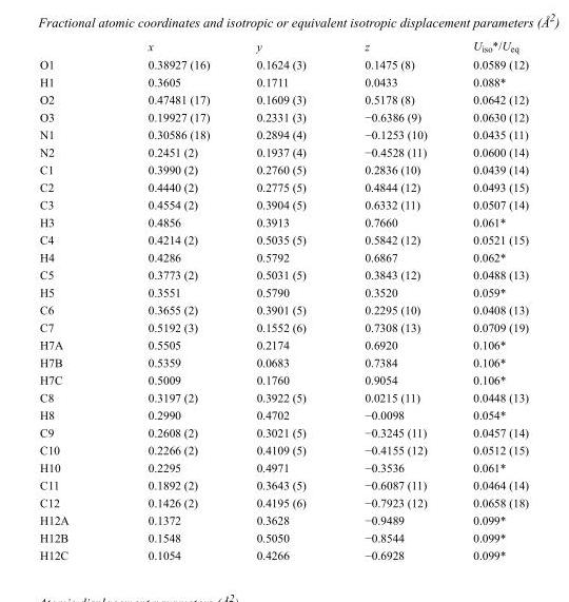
<table><thead><tr><td></td><td>x</td><td>y</td><td>z</td><td>U<sub>iso</sub>*/U<sub>eq</sub></td></tr></thead><tbody><tr><td>O1</td><td>0.38927 (16)</td><td>0.1624 (3)</td><td>0.1475 (8)</td><td>0.0589 (12)</td></tr><tr><td>H1</td><td>0.3605</td><td>0.1711</td><td>0.0433</td><td>0.088*</td></tr><tr><td>O2</td><td>0.47481 (17)</td><td>0.1609 (3)</td><td>0.5178 (8)</td><td>0.0642 (12)</td></tr><tr><td>O3</td><td>0.19927 (17)</td><td>0.2331 (3)</td><td>−0.6386 (9)</td><td>0.0630 (12)</td></tr><tr><td>N1</td><td>0.30586 (18)</td><td>0.2894 (4)</td><td>−0.1253 (10)</td><td>0.0435 (11)</td></tr><tr><td>N2</td><td>0.2451 (2)</td><td>0.1937 (4)</td><td>−0.4528 (11)</td><td>0.0600 (14)</td></tr><tr><td>C1</td><td>0.3990 (2)</td><td>0.2760 (5)</td><td>0.2836 (10)</td><td>0.0439 (14)</td></tr><tr><td>C2</td><td>0.4440 (2)</td><td>0.2775 (5)</td><td>0.4844 (12)</td><td>0.0493 (15)</td></tr><tr><td>C3</td><td>0.4554 (2)</td><td>0.3904 (5)</td><td>0.6332 (11)</td><td>0.0507 (14)</td></tr><tr><td>H3</td><td>0.4856</td><td>0.3913</td><td>0.7660</td><td>0.061*</td></tr><tr><td>C4</td><td>0.4214 (2)</td><td>0.5035 (5)</td><td>0.5842 (12)</td><td>0.0521 (15)</td></tr><tr><td>H4</td><td>0.4286</td><td>0.5792</td><td>0.6867</td><td>0.062*</td></tr><tr><td>C5</td><td>0.3773 (2)</td><td>0.5031 (5)</td><td>0.3843 (12)</td><td>0.0488 (13)</td></tr><tr><td>H5</td><td>0.3551</td><td>0.5790</td><td>0.3520</td><td>0.059*</td></tr><tr><td>C6</td><td>0.3655 (2)</td><td>0.3901 (5)</td><td>0.2295 (10)</td><td>0.0408 (13)</td></tr><tr><td>C7</td><td>0.5192 (3)</td><td>0.1552 (6)</td><td>0.7308 (13)</td><td>0.0709 (19)</td></tr><tr><td>H7A</td><td>0.5505</td><td>0.2174</td><td>0.6920</td><td>0.106*</td></tr><tr><td>H7B</td><td>0.5359</td><td>0.0683</td><td>0.7384</td><td>0.106*</td></tr><tr><td>H7C</td><td>0.5009</td><td>0.1760</td><td>0.9054</td><td>0.106*</td></tr><tr><td>C8</td><td>0.3197 (2)</td><td>0.3922 (5)</td><td>0.0215 (11)</td><td>0.0448 (13)</td></tr><tr><td>H8</td><td>0.2990</td><td>0.4702</td><td>−0.0098</td><td>0.054*</td></tr><tr><td>C9</td><td>0.2608 (2)</td><td>0.3021 (5)</td><td>−0.3245 (11)</td><td>0.0457 (14)</td></tr><tr><td>C10</td><td>0.2266 (2)</td><td>0.4109 (5)</td><td>−0.4155 (12)</td><td>0.0512 (15)</td></tr><tr><td>H10</td><td>0.2295</td><td>0.4971</td><td>−0.3536</td><td>0.061*</td></tr><tr><td>C11</td><td>0.1892 (2)</td><td>0.3643 (5)</td><td>−0.6087 (11)</td><td>0.0464 (14)</td></tr><tr><td>C12</td><td>0.1426 (2)</td><td>0.4195 (6)</td><td>−0.7923 (12)</td><td>0.0658 (18)</td></tr><tr><td>H12A</td><td>0.1372</td><td>0.3628</td><td>−0.9489</td><td>0.099*</td></tr><tr><td>H12B</td><td>0.1548</td><td>0.5050</td><td>−0.8544</td><td>0.099*</td></tr><tr><td>H12C</td><td>0.1054</td><td>0.4266</td><td>−0.6928</td><td>0.099*</td></tr></tbody></table>